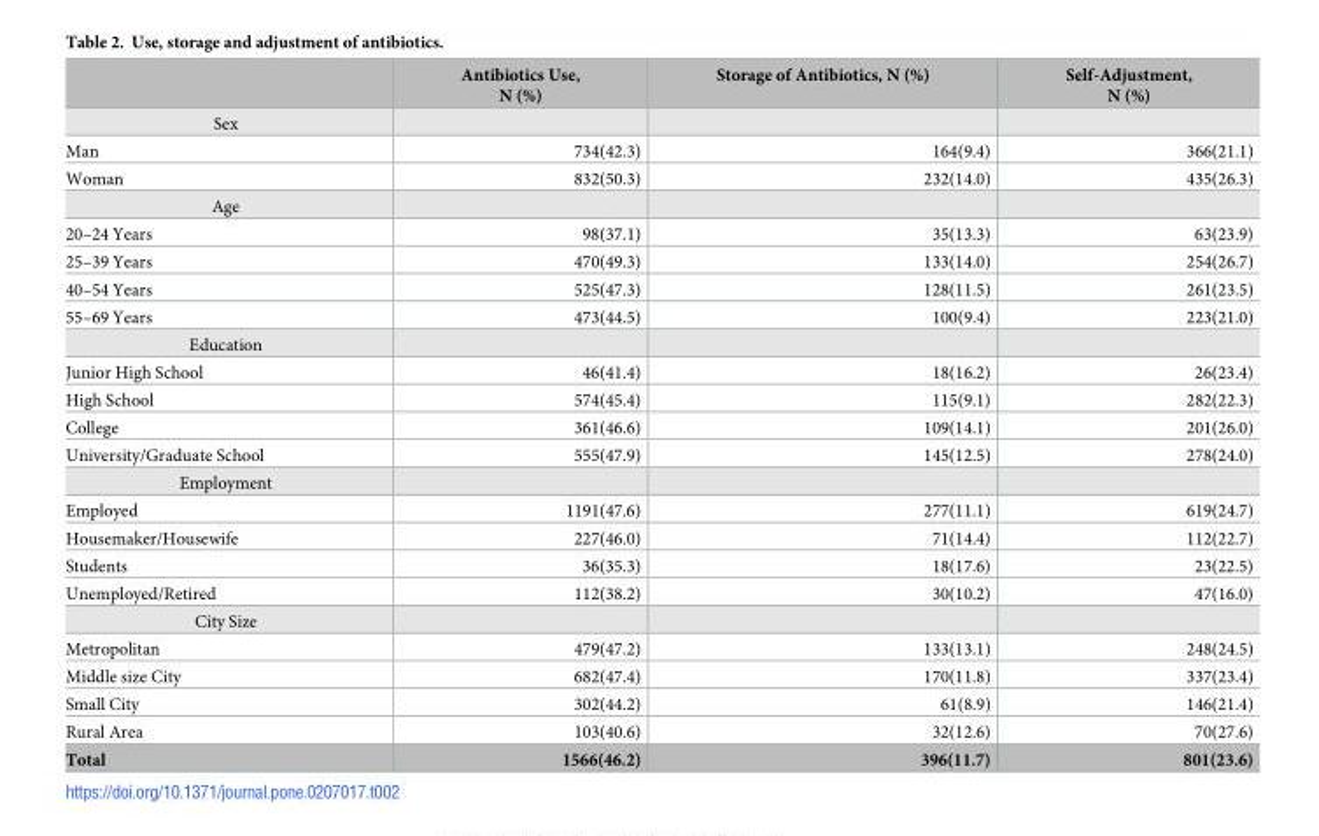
<table><thead><tr><td></td><td>Antibiotics Use, N (%)</td><td>Storage of Antibiotics, N (%)</td><td>Self-Adjustment, N (%)</td></tr></thead><tbody><tr><td colspan="4">Sex</td></tr><tr><td>Man</td><td>734(42.3)</td><td>164(9.4)</td><td>366(21.1)</td></tr><tr><td>Woman</td><td>832(50.3)</td><td>232(14.0)</td><td>435(26.3)</td></tr><tr><td colspan="4">Age</td></tr><tr><td>20–24 Years</td><td>98(37.1)</td><td>35(13.3)</td><td>63(23.9)</td></tr><tr><td>25–39 Years</td><td>470(49.3)</td><td>133(14.0)</td><td>254(26.7)</td></tr><tr><td>40–54 Years</td><td>525(47.3)</td><td>128(11.5)</td><td>261(23.5)</td></tr><tr><td>55–69 Years</td><td>473(44.5)</td><td>100(9.4)</td><td>223(21.0)</td></tr><tr><td colspan="4">Education</td></tr><tr><td>Junior High School</td><td>46(41.4)</td><td>18(16.2)</td><td>26(23.4)</td></tr><tr><td>High School</td><td>574(45.4)</td><td>115(9.1)</td><td>282(22.3)</td></tr><tr><td>College</td><td>361(46.6)</td><td>109(14.1)</td><td>201(26.0)</td></tr><tr><td>University/Graduate School</td><td>555(47.9)</td><td>145(12.5)</td><td>278(24.0)</td></tr><tr><td colspan="4">Employment</td></tr><tr><td>Employed</td><td>1191(47.6)</td><td>277(11.1)</td><td>619(24.7)</td></tr><tr><td>Housemaker/Housewife</td><td>227(46.0)</td><td>71(14.4)</td><td>112(22.7)</td></tr><tr><td>Students</td><td>36(35.3)</td><td>18(17.6)</td><td>23(22.5)</td></tr><tr><td>Unemployed/Retired</td><td>112(38.2)</td><td>30(10.2)</td><td>47(16.0)</td></tr><tr><td colspan="4">City Size</td></tr><tr><td>Metropolitan</td><td>479(47.2)</td><td>133(13.1)</td><td>248(24.5)</td></tr><tr><td>Middle size City</td><td>682(47.4)</td><td>170(11.8)</td><td>337(23.4)</td></tr><tr><td>Small City</td><td>302(44.2)</td><td>61(8.9)</td><td>146(21.4)</td></tr><tr><td>Rural Area</td><td>103(40.6)</td><td>32(12.6)</td><td>70(27.6)</td></tr><tr><td>Total</td><td>1566(46.2)</td><td>396(11.7)</td><td>801(23.6)</td></tr></tbody></table>